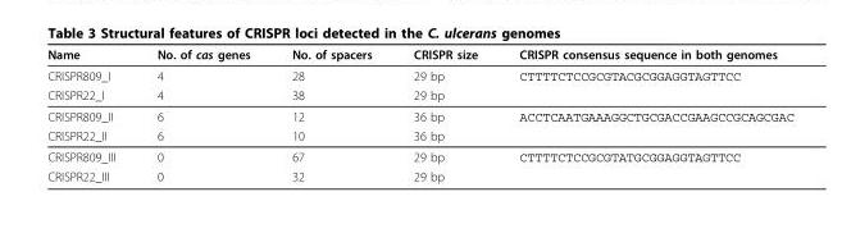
<table><thead><tr><td>Name</td><td>No. of cas genes</td><td>No. of spacers</td><td>CRISPR size</td><td>CRISPR consensus sequence in both genomes</td></tr></thead><tbody><tr><td>CRISPR809_I</td><td>4</td><td>28</td><td>29 bp</td><td>CTTTTCTCCGCGTACGCGGAGGTAGTTCC</td></tr><tr><td>CRISPR22_I</td><td>4</td><td>38</td><td>29 bp</td><td></td></tr><tr><td>CRISPR809_II</td><td>6</td><td>12</td><td>36 bp</td><td>ACCTCAATGAAAGGCTGCGACCGAAGCCGCAGCGAC</td></tr><tr><td>CRISPR22_II</td><td>6</td><td>10</td><td>36 bp</td><td></td></tr><tr><td>CRISPR809_III</td><td>0</td><td>67</td><td>29 bp</td><td>CTTTTCTCCGCGTATGCGGAGGTAGTTCC</td></tr><tr><td>CRISPR22_III</td><td>0</td><td>32</td><td>29 bp</td><td></td></tr></tbody></table>